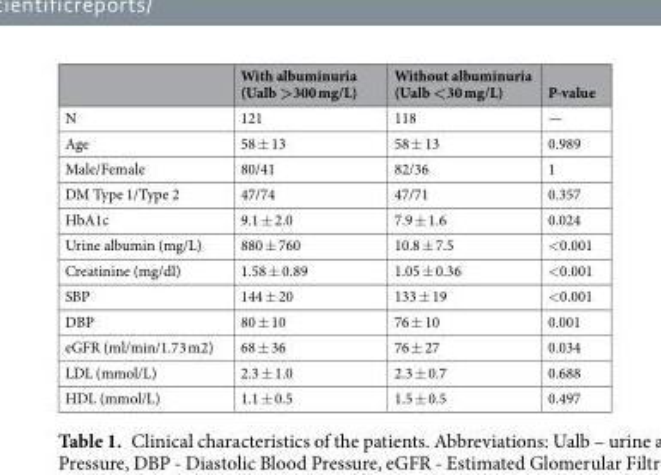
<table><thead><tr><td></td><td>With albuminuria (Ualb &gt;300 mg/L)</td><td>Without albuminuria (Ualb &lt;30 mg/L)</td><td>P-value</td></tr></thead><tbody><tr><td>N</td><td>121</td><td>118</td><td>—</td></tr><tr><td>Age</td><td>58 ± 13</td><td>58 ± 13</td><td>0.989</td></tr><tr><td>Male/Female</td><td>80/41</td><td>82/36</td><td>1</td></tr><tr><td>DM Type 1/Type 2</td><td>47/74</td><td>47/71</td><td>0.357</td></tr><tr><td>HbA1c</td><td>9.1 ± 2.0</td><td>7.9 ± 1.6</td><td>0.024</td></tr><tr><td>Urine albumin (mg/L)</td><td>880 ± 760</td><td>10.8 ± 7.5</td><td>&lt;0.001</td></tr><tr><td>Creatinine (mg/dl)</td><td>1.58 ± 0.89</td><td>1.05 ± 0.36</td><td>&lt;0.001</td></tr><tr><td>SBP</td><td>144 ± 20</td><td>133 ± 19</td><td>&lt;0.001</td></tr><tr><td>DBP</td><td>80 ± 10</td><td>76 ± 10</td><td>0.001</td></tr><tr><td>eGFR (ml/min/1.73 m2)</td><td>68 ± 36</td><td>76 ± 27</td><td>0.034</td></tr><tr><td>LDL (mmol/L)</td><td>2.3 ± 1.0</td><td>2.3 ± 0.7</td><td>0.688</td></tr><tr><td>HDL (mmol/L)</td><td>1.1 ± 0.5</td><td>1.5 ± 0.5</td><td>0.497</td></tr></tbody></table>